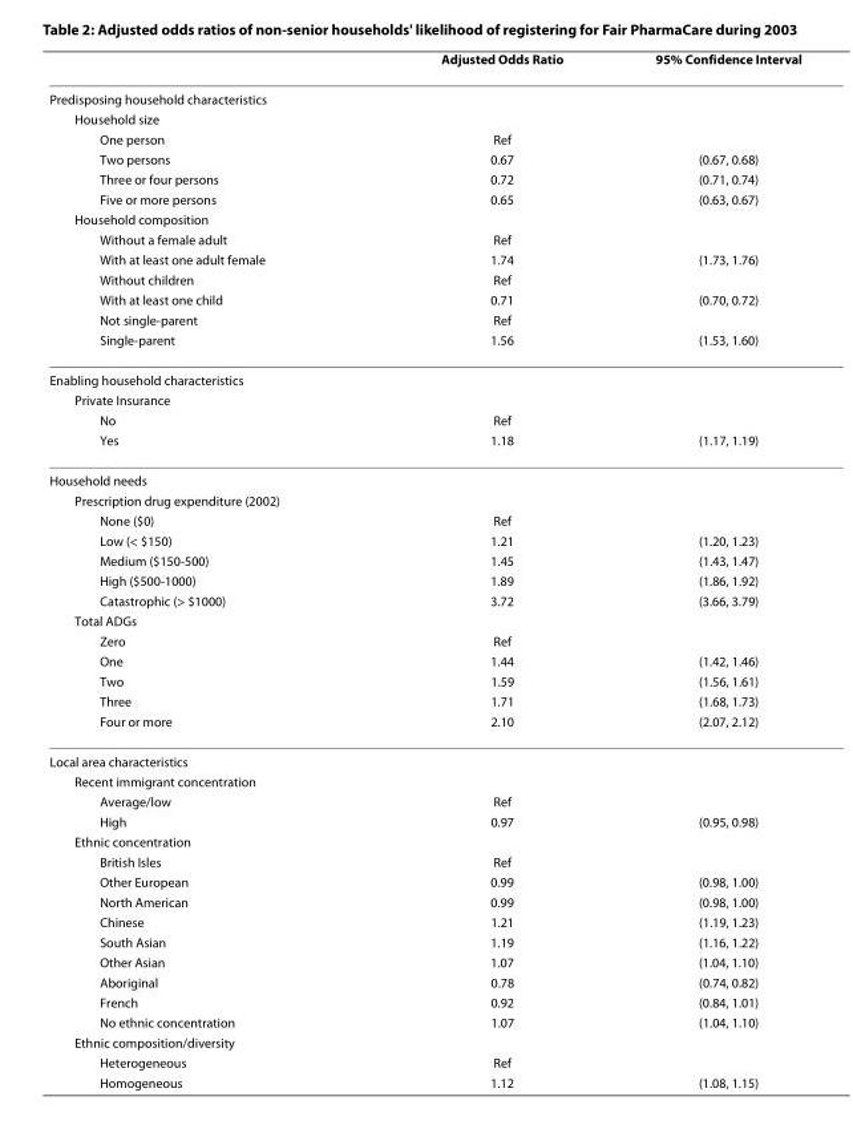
<table><thead><tr><td></td><td>Adjusted Odds Ratio</td><td>95% Confidence Interval</td></tr></thead><tbody><tr><td colspan="3">Predisposing household characteristics</td></tr><tr><td colspan="3">Household size</td></tr><tr><td>One person</td><td>Ref</td><td></td></tr><tr><td>Two persons</td><td>0.67</td><td>(0.67, 0.68)</td></tr><tr><td>Three or four persons</td><td>0.72</td><td>(0.71, 0.74)</td></tr><tr><td>Five or more persons</td><td>0.65</td><td>(0.63, 0.67)</td></tr><tr><td colspan="3">Household composition</td></tr><tr><td>Without a female adult</td><td>Ref</td><td></td></tr><tr><td>With at least one adult female</td><td>1.74</td><td>(1.73, 1.76)</td></tr><tr><td>Without children</td><td>Ref</td><td></td></tr><tr><td>With at least one child</td><td>0.71</td><td>(0.70, 0.72)</td></tr><tr><td>Not single-parent</td><td>Ref</td><td></td></tr><tr><td>Single-parent</td><td>1.56</td><td>(1.53, 1.60)</td></tr><tr><td colspan="3">Enabling household characteristics</td></tr><tr><td colspan="3">Private Insurance</td></tr><tr><td>No</td><td>Ref</td><td></td></tr><tr><td>Yes</td><td>1.18</td><td>(1.17, 1.19)</td></tr><tr><td colspan="3">Household needs</td></tr><tr><td colspan="3">Prescription drug expenditure (2002)</td></tr><tr><td>None ($0)</td><td>Ref</td><td></td></tr><tr><td>Low (&lt; $150)</td><td>1.21</td><td>(1.20, 1.23)</td></tr><tr><td>Medium ($150-500)</td><td>1.45</td><td>(1.43, 1.47)</td></tr><tr><td>High ($500-1000)</td><td>1.89</td><td>(1.86, 1.92)</td></tr><tr><td>Catastrophic (&gt; $1000)</td><td>3.72</td><td>(3.66, 3.79)</td></tr><tr><td colspan="3">Total ADGs</td></tr><tr><td>Zero</td><td>Ref</td><td></td></tr><tr><td>One</td><td>1.44</td><td>(1.42, 1.46)</td></tr><tr><td>Two</td><td>1.59</td><td>(1.56, 1.61)</td></tr><tr><td>Three</td><td>1.71</td><td>(1.68, 1.73)</td></tr><tr><td>Four or more</td><td>2.10</td><td>(2.07, 2.12)</td></tr><tr><td colspan="3">Local area characteristics</td></tr><tr><td colspan="3">Recent immigrant concentration</td></tr><tr><td>Average/low</td><td>Ref</td><td></td></tr><tr><td>High</td><td>0.97</td><td>(0.95, 0.98)</td></tr><tr><td colspan="3">Ethnic concentration</td></tr><tr><td>British Isles</td><td>Ref</td><td></td></tr><tr><td>Other European</td><td>0.99</td><td>(0.98, 1.00)</td></tr><tr><td>North American</td><td>0.99</td><td>(0.98, 1.00)</td></tr><tr><td>Chinese</td><td>1.21</td><td>(1.19, 1.23)</td></tr><tr><td>South Asian</td><td>1.19</td><td>(1.16, 1.22)</td></tr><tr><td>Other Asian</td><td>1.07</td><td>(1.04, 1.10)</td></tr><tr><td>Aboriginal</td><td>0.78</td><td>(0.74, 0.82)</td></tr><tr><td>French</td><td>0.92</td><td>(0.84, 1.01)</td></tr><tr><td>No ethnic concentration</td><td>1.07</td><td>(1.04, 1.10)</td></tr><tr><td colspan="3">Ethnic composition/diversity</td></tr><tr><td>Heterogeneous</td><td>Ref</td><td></td></tr><tr><td>Homogeneous</td><td>1.12</td><td>(1.08, 1.15)</td></tr></tbody></table>